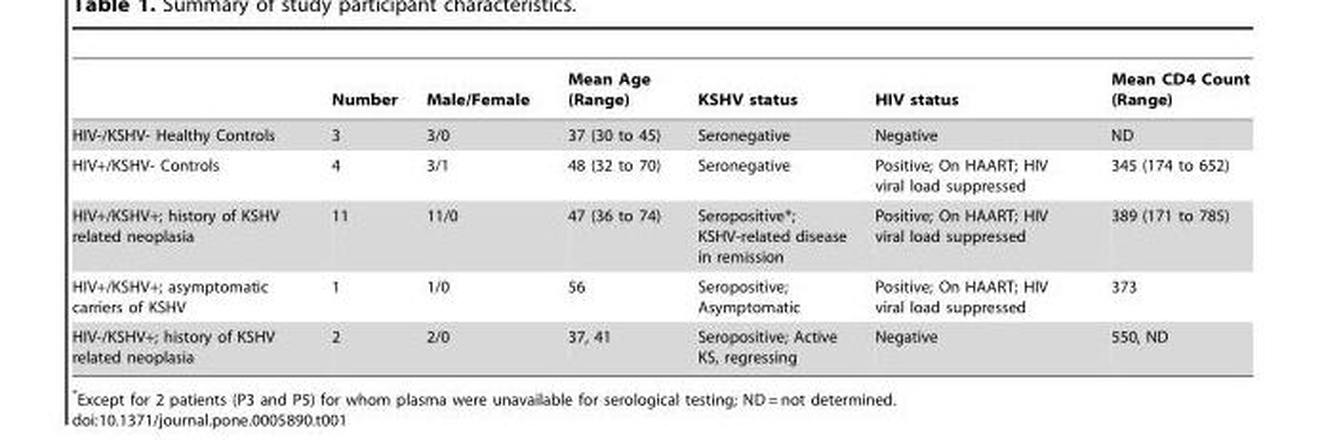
<table><thead><tr><td></td><td>Number</td><td>Male/Female</td><td>Mean Age (Range)</td><td>KSHV status</td><td>HIV status</td><td>Mean CD4 Count (Range)</td></tr></thead><tbody><tr><td>HIV-/KSHV- Healthy Controls</td><td>3</td><td>3/0</td><td>37 (30 to 45)</td><td>Seronegative</td><td>Negative</td><td>ND</td></tr><tr><td>HIV+/KSHV- Controls</td><td>4</td><td>3/1</td><td>48 (32 to 70)</td><td>Seronegative</td><td>Positive; On HAART; HIV viral load suppressed</td><td>345 (174 to 652)</td></tr><tr><td>HIV+/KSHV+; history of KSHV related neoplasia</td><td>11</td><td>11/0</td><td>47 (36 to 74)</td><td>Seropositive*; KSHV-related disease in remission</td><td>Positive; On HAART; HIV viral load suppressed</td><td>389 (171 to 785)</td></tr><tr><td>HIV+/KSHV+; asymptomatic carriers of KSHV</td><td>1</td><td>1/0</td><td>56</td><td>Seropositive; Asymptomatic</td><td>Positive; On HAART; HIV viral load suppressed</td><td>373</td></tr><tr><td>HIV-/KSHV+; history of KSHV related neoplasia</td><td>2</td><td>2/0</td><td>37, 41</td><td>Seropositive; Active KS, regressing</td><td>Negative</td><td>550, ND</td></tr></tbody></table>